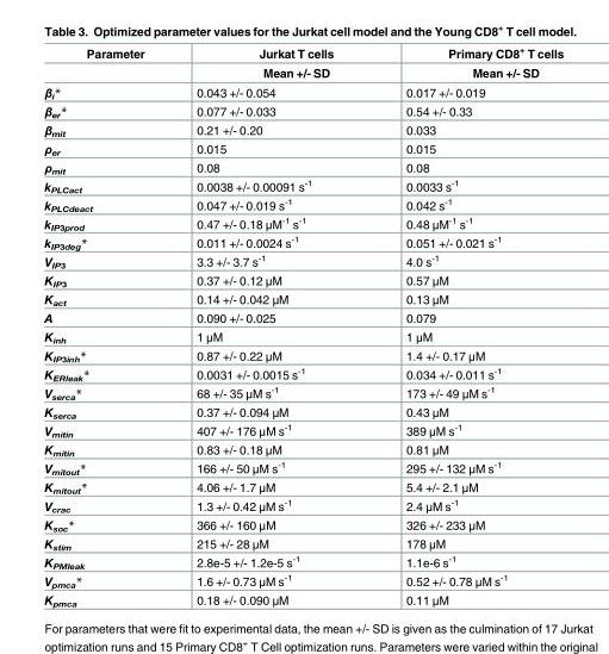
<table><thead><tr><td rowspan="2">Parameter</td><td rowspan="2">Jurkat T cells Mean +/- SD</td><td rowspan="2">Primary CD8<sup>+</sup> T cells Mean +/- SD</td></tr><tr></tr></thead><tbody><tr><td>β<sub>i</sub>*</td><td>0.043 +/- 0.054</td><td>0.017 +/- 0.019</td></tr><tr><td>β<sub>er</sub>*</td><td>0.077 +/- 0.033</td><td>0.54 +/- 0.33</td></tr><tr><td>β<sub>mit</sub></td><td>0.21 +/- 0.20</td><td>0.033</td></tr><tr><td>ρ<sub>er</sub></td><td>0.015</td><td>0.015</td></tr><tr><td>ρ<sub>mit</sub></td><td>0.08</td><td>0.08</td></tr><tr><td>k<sub>PLCact</sub></td><td>0.0038 +/- 0.00091 s<sup>-1</sup></td><td>0.0033 s<sup>-1</sup></td></tr><tr><td>k<sub>PLCdeact</sub></td><td>0.047 +/- 0.019 s<sup>-1</sup></td><td>0.042 s<sup>-1</sup></td></tr><tr><td>k<sub>IP3prod</sub></td><td>0.47 +/- 0.18 μM<sup>-1</sup> s<sup>-1</sup></td><td>0.48 μM<sup>-1</sup> s<sup>-1</sup></td></tr><tr><td>k<sub>IP3deg</sub>*</td><td>0.011 +/- 0.0024 s<sup>-1</sup></td><td>0.051 +/- 0.021 s<sup>-1</sup></td></tr><tr><td>V<sub>IP3</sub></td><td>3.3 +/- 3.7 s<sup>-1</sup></td><td>4.0 s<sup>-1</sup></td></tr><tr><td>K<sub>IP3</sub></td><td>0.37 +/- 0.12 μM</td><td>0.57 μM</td></tr><tr><td>K<sub>act</sub></td><td>0.14 +/- 0.042 μM</td><td>0.13 μM</td></tr><tr><td>A</td><td>0.090 +/- 0.025</td><td>0.079</td></tr><tr><td>K<sub>inh</sub></td><td>1 μM</td><td>1 μM</td></tr><tr><td>K<sub>IP3inh</sub>*</td><td>0.87 +/- 0.22 μM</td><td>1.4 +/- 0.17 μM</td></tr><tr><td>K<sub>ERleak</sub>*</td><td>0.0031 +/- 0.0015 s<sup>-1</sup></td><td>0.034 +/- 0.011 s<sup>-1</sup></td></tr><tr><td>V<sub>serca</sub>*</td><td>68 +/- 35 μM s<sup>-1</sup></td><td>173 +/- 49 μM s<sup>-1</sup></td></tr><tr><td>K<sub>serca</sub></td><td>0.37 +/- 0.094 μM</td><td>0.43 μM</td></tr><tr><td>V<sub>mitin</sub></td><td>407 +/- 176 μM s<sup>-1</sup></td><td>389 μM s<sup>-1</sup></td></tr><tr><td>K<sub>mitin</sub></td><td>0.83 +/- 0.18 μM</td><td>0.81 μM</td></tr><tr><td>V<sub>mitout</sub>*</td><td>166 +/- 50 μM s<sup>-1</sup></td><td>295 +/- 132 μM s<sup>-1</sup></td></tr><tr><td>K<sub>mitout</sub>*</td><td>4.06 +/- 1.7 μM</td><td>5.4 +/- 2.1 μM</td></tr><tr><td>V<sub>crac</sub></td><td>1.3 +/- 0.42 μM s<sup>-1</sup></td><td>2.4 μM s<sup>-1</sup></td></tr><tr><td>K<sub>soc</sub>*</td><td>366 +/- 160 μM</td><td>326 +/- 233 μM</td></tr><tr><td>K<sub>stim</sub></td><td>215 +/- 28 μM</td><td>178 μM</td></tr><tr><td>K<sub>PMleak</sub></td><td>2.8e-5 +/- 1.2e-5 s<sup>-1</sup></td><td>1.1e-6 s<sup>-1</sup></td></tr><tr><td>V<sub>pmca</sub>*</td><td>1.6 +/- 0.73 μM s<sup>-1</sup></td><td>0.52 +/- 0.78 μM s<sup>-1</sup></td></tr><tr><td>K<sub>pmca</sub></td><td>0.18 +/- 0.090 μM</td><td>0.11 μM</td></tr></tbody></table>